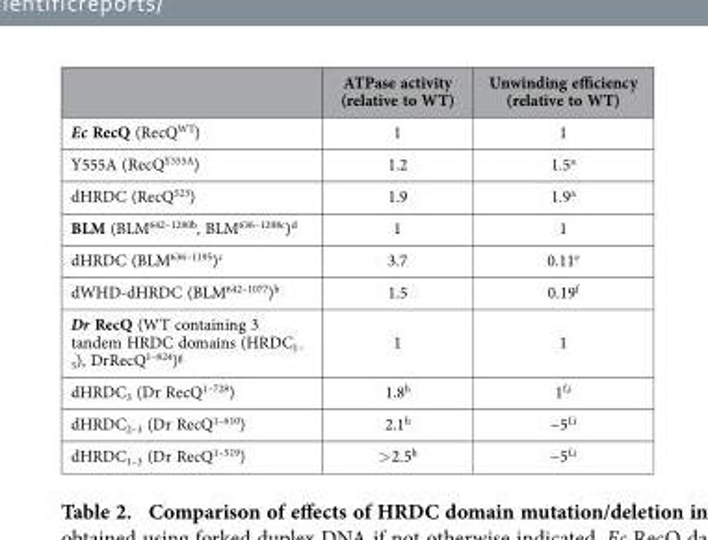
<table><thead><tr><td></td><td>ATPase activity (relative to WT)</td><td>Unwinding efficiency (relative to WT)</td></tr></thead><tbody><tr><td>Ec RecQ (RecQ<sup>WT</sup>)</td><td>1</td><td>1</td></tr><tr><td>Y555A (RecQ<sup>Y555A</sup>)</td><td>1.2</td><td>1.5<sup>a</sup></td></tr><tr><td>dHRDC (RecQ<sup>523</sup>)</td><td>1.9</td><td>1.9<sup>a</sup></td></tr><tr><td>BLM (BLM<sup>642–1290b</sup>, BLM<sup>636–1298c</sup>)<sup>d</sup></td><td>1</td><td>1</td></tr><tr><td>dHRDC (BLM<sup>636–1195</sup>)<sup>c</sup></td><td>3.7</td><td>0.11<sup>e</sup></td></tr><tr><td>dWHD-dHRDC (BLM<sup>642–1077</sup>)<sup>b</sup></td><td>1.5</td><td>0.19<sup>f</sup></td></tr><tr><td>Dr RecQ (WT containing 3 tandem HRDC domains (HRDC<sub>1– 3</sub>), DrRecQ<sup>1–824</sup>)<sup>g</sup></td><td>1</td><td>1</td></tr><tr><td>dHRDC<sub>3</sub> (Dr RecQ<sup>1–728</sup>)</td><td>1.8<sup>h</sup></td><td>1<sup>f</sup>,<sup>i</sup></td></tr><tr><td>dHRDC<sub>2–3</sub> (Dr RecQ<sup>1–610</sup>)</td><td>2.1<sup>h</sup></td><td>~5<sup>f</sup>,<sup>i</sup></td></tr><tr><td>dHRDC<sub>1–3</sub> (Dr RecQ<sup>1–519</sup>)</td><td>&gt; 2.5<sup>h</sup></td><td>~5<sup>f</sup>,<sup>i</sup></td></tr></tbody></table>